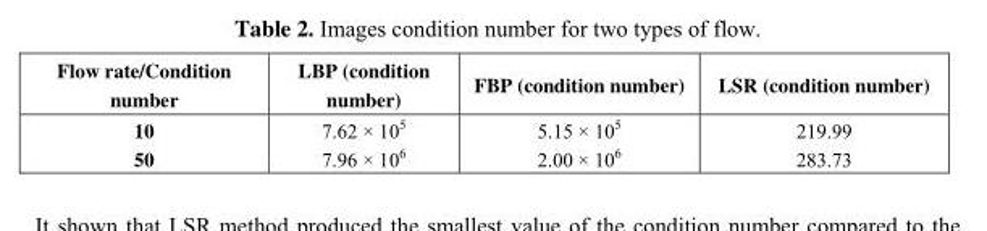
<table><thead><tr><td>Flow rate/Condition number</td><td>LBP (condition number)</td><td>FBP (condition number)</td><td>LSR (condition number)</td></tr></thead><tbody><tr><td>10</td><td>7.62 × 10<sup>5</sup></td><td>5.15 × 10<sup>5</sup></td><td>219.99</td></tr><tr><td>50</td><td>7.96 × 10<sup>6</sup></td><td>2.00 × 10<sup>6</sup></td><td>283.73</td></tr></tbody></table>